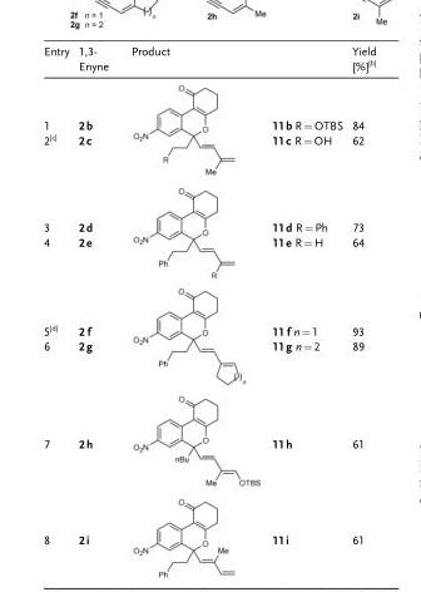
<table><thead><tr><td>Entry</td><td>1,3- Enyne</td><td>Product</td><td></td><td>Yield [%][b]</td></tr></thead><tbody><tr><td>1 2[c]</td><td>2b 2c</td><td></td><td>11b R=OTBS 11c R=OH</td><td>84 62</td></tr><tr><td>3 4</td><td>2d 2e</td><td></td><td>11d R=Ph 11e R=H</td><td>73 64</td></tr><tr><td>5[d] 6</td><td>2 f 2g</td><td></td><td>11 f n=1 11g n=2</td><td>93 89</td></tr><tr><td>7</td><td>2h</td><td></td><td>11h</td><td>61</td></tr><tr><td>8</td><td>2i</td><td></td><td>11i</td><td>61</td></tr></tbody></table>